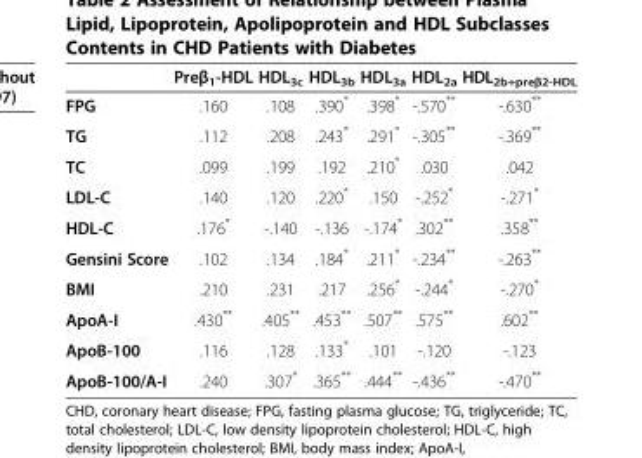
<table><thead><tr><td></td><td>Preβ<sub>1</sub>-HDL</td><td>HDL<sub>3c</sub></td><td>HDL<sub>3b</sub></td><td>HDL<sub>3a</sub></td><td>HDL<sub>2a</sub></td><td>HDL<sub>2b+preβ2-HDL</sub></td></tr></thead><tbody><tr><td>FPG</td><td>.160</td><td>.108</td><td>.390*</td><td>.398*</td><td>-.570**</td><td>-.630**</td></tr><tr><td>TG</td><td>.112</td><td>.208</td><td>.243*</td><td>.291*</td><td>-.305**</td><td>-.369**</td></tr><tr><td>TC</td><td>.099</td><td>.199</td><td>.192</td><td>.210*</td><td>.030</td><td>.042</td></tr><tr><td>LDL-C</td><td>.140</td><td>.120</td><td>.220*</td><td>.150</td><td>-.252*</td><td>-.271*</td></tr><tr><td>HDL-C</td><td>.176*</td><td>-.140</td><td>-.136</td><td>-.174*</td><td>.302**</td><td>.358**</td></tr><tr><td>Gensini Score</td><td>.102</td><td>.134</td><td>.184*</td><td>.211*</td><td>-.234**</td><td>-.263**</td></tr><tr><td>BMI</td><td>.210</td><td>.231</td><td>.217</td><td>.256*</td><td>-.244*</td><td>-.270*</td></tr><tr><td>ApoA-I</td><td>.430**</td><td>.405**</td><td>.453**</td><td>.507**</td><td>.575**</td><td>.602**</td></tr><tr><td>ApoB-100</td><td>.116</td><td>.128</td><td>.133*</td><td>.101</td><td>-.120</td><td>-.123</td></tr><tr><td>ApoB-100/A-I</td><td>.240</td><td>.307*</td><td>.365**</td><td>.444**</td><td>-.436**</td><td>-.470**</td></tr></tbody></table>